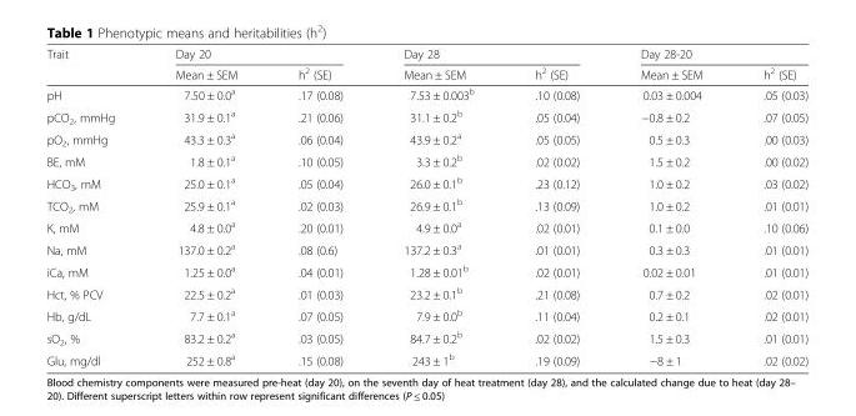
<table><thead><tr><td rowspan="2">Trait</td><td colspan="2">Day 20</td><td colspan="2">Day 28</td><td colspan="2">Day 28-20</td></tr><tr><td>Mean ± SEM</td><td>h<sup>2</sup> (SE)</td><td>Mean ± SEM</td><td>h<sup>2</sup> (SE)</td><td>Mean ± SEM</td><td>h<sup>2</sup> (SE)</td></tr></thead><tbody><tr><td>pH</td><td>7.50 ± 0.0<sup>a</sup></td><td>.17 (0.08)</td><td>7.53 ± 0.003<sup>b</sup></td><td>.10 (0.08)</td><td>0.03 ± 0.004</td><td>.05 (0.03)</td></tr><tr><td>pCO<sub>2</sub>, mmHg</td><td>31.9 ± 0.1<sup>a</sup></td><td>.21 (0.06)</td><td>31.1 ± 0.2<sup>b</sup></td><td>.05 (0.04)</td><td>−0.8 ± 0.2</td><td>.07 (0.05)</td></tr><tr><td>pO<sub>2</sub>, mmHg</td><td>43.3 ± 0.3<sup>a</sup></td><td>.06 (0.04)</td><td>43.9 ± 0.2<sup>a</sup></td><td>.05 (0.05)</td><td>0.5 ± 0.3</td><td>.00 (0.03)</td></tr><tr><td>BE, mM</td><td>1.8 ± 0.1<sup>a</sup></td><td>.10 (0.05)</td><td>3.3 ± 0.2<sup>b</sup></td><td>.02 (0.02)</td><td>1.5 ± 0.2</td><td>.00 (0.02)</td></tr><tr><td>HCO<sub>3</sub>, mM</td><td>25.0 ± 0.1<sup>a</sup></td><td>.05 (0.04)</td><td>26.0 ± 0.1<sup>b</sup></td><td>.23 (0.12)</td><td>1.0 ± 0.2</td><td>.03 (0.02)</td></tr><tr><td>TCO<sub>2</sub>, mM</td><td>25.9 ± 0.1<sup>a</sup></td><td>.02 (0.03)</td><td>26.9 ± 0.1<sup>b</sup></td><td>.13 (0.09)</td><td>1.0 ± 0.2</td><td>.01 (0.01)</td></tr><tr><td>K, mM</td><td>4.8 ± 0.0<sup>a</sup></td><td>.20 (0.01)</td><td>4.9 ± 0.0<sup>a</sup></td><td>.02 (0.01)</td><td>0.1 ± 0.0</td><td>.10 (0.06)</td></tr><tr><td>Na, mM</td><td>137.0 ± 0.2<sup>a</sup></td><td>.08 (0.6)</td><td>137.2 ± 0.3<sup>a</sup></td><td>.01 (0.01)</td><td>0.3 ± 0.3</td><td>.01 (0.01)</td></tr><tr><td>iCa, mM</td><td>1.25 ± 0.0<sup>a</sup></td><td>.04 (0.01)</td><td>1.28 ± 0.01<sup>b</sup></td><td>.02 (0.01)</td><td>0.02 ± 0.01</td><td>.01 (0.01)</td></tr><tr><td>Hct, % PCV</td><td>22.5 ± 0.2<sup>a</sup></td><td>.01 (0.03)</td><td>23.2 ± 0.1<sup>b</sup></td><td>.21 (0.08)</td><td>0.7 ± 0.2</td><td>.02 (0.01)</td></tr><tr><td>Hb, g/dL</td><td>7.7 ± 0.1<sup>a</sup></td><td>.07 (0.05)</td><td>7.9 ± 0.0<sup>b</sup></td><td>.11 (0.04)</td><td>0.2 ± 0.1</td><td>.02 (0.01)</td></tr><tr><td>sO<sub>2</sub>, %</td><td>83.2 ± 0.2<sup>a</sup></td><td>.03 (0.05)</td><td>84.7 ± 0.2<sup>b</sup></td><td>.02 (0.02)</td><td>1.5 ± 0.3</td><td>.01 (0.01)</td></tr><tr><td>Glu, mg/dl</td><td>252 ± 0.8<sup>a</sup></td><td>.15 (0.08)</td><td>243 ± 1<sup>b</sup></td><td>.19 (0.09)</td><td>−8 ± 1</td><td>.02 (0.02)</td></tr></tbody></table>